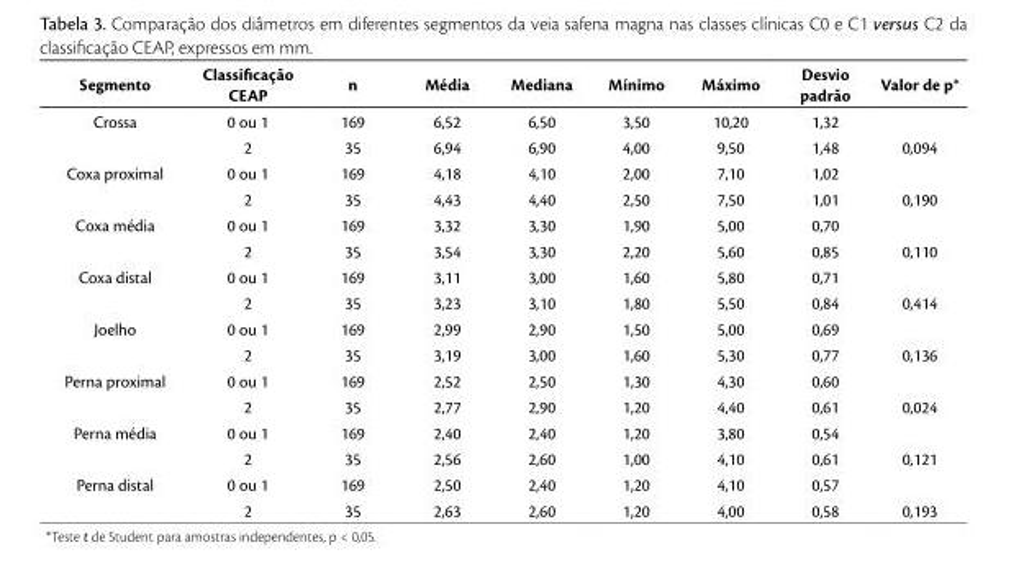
<table><thead><tr><td>Segmento</td><td>Classificação CEAP</td><td>n</td><td>Média</td><td>Mediana</td><td>Mínimo</td><td>Máximo</td><td>Desvio padrão</td><td>Valor de p*</td></tr></thead><tbody><tr><td rowspan="2">Crossa</td><td>0 ou 1</td><td>169</td><td>6,52</td><td>6,50</td><td>3,50</td><td>10,20</td><td>1,32</td><td></td></tr><tr><td>2</td><td>35</td><td>6,94</td><td>6,90</td><td>4,00</td><td>9,50</td><td>1,48</td><td>0,094</td></tr><tr><td rowspan="2">Coxa proximal</td><td>0 ou 1</td><td>169</td><td>4,18</td><td>4,10</td><td>2,00</td><td>7,10</td><td>1,02</td><td></td></tr><tr><td>2</td><td>35</td><td>4,43</td><td>4,40</td><td>2,50</td><td>7,50</td><td>1,01</td><td>0,190</td></tr><tr><td rowspan="2">Coxa média</td><td>0 ou 1</td><td>169</td><td>3,32</td><td>3,30</td><td>1,90</td><td>5,00</td><td>0,70</td><td></td></tr><tr><td>2</td><td>35</td><td>3,54</td><td>3,30</td><td>2,20</td><td>5,60</td><td>0,85</td><td>0,110</td></tr><tr><td rowspan="2">Coxa distal</td><td>0 ou 1</td><td>169</td><td>3,11</td><td>3,00</td><td>1,60</td><td>5,80</td><td>0,71</td><td></td></tr><tr><td>2</td><td>35</td><td>3,23</td><td>3,10</td><td>1,80</td><td>5,50</td><td>0,84</td><td>0,414</td></tr><tr><td rowspan="2">Joelho</td><td>0 ou 1</td><td>169</td><td>2,99</td><td>2,90</td><td>1,50</td><td>5,00</td><td>0,69</td><td></td></tr><tr><td>2</td><td>35</td><td>3,19</td><td>3,00</td><td>1,60</td><td>5,30</td><td>0,77</td><td>0,136</td></tr><tr><td rowspan="2">Perna proximal</td><td>0 ou 1</td><td>169</td><td>2,52</td><td>2,50</td><td>1,30</td><td>4,30</td><td>0,60</td><td></td></tr><tr><td>2</td><td>35</td><td>2,77</td><td>2,90</td><td>1,20</td><td>4,40</td><td>0,61</td><td>0,024</td></tr><tr><td rowspan="2">Perna média</td><td>0 ou 1</td><td>169</td><td>2,40</td><td>2,40</td><td>1,20</td><td>3,80</td><td>0,54</td><td></td></tr><tr><td>2</td><td>35</td><td>2,56</td><td>2,60</td><td>1,00</td><td>4,10</td><td>0,61</td><td>0,121</td></tr><tr><td rowspan="2">Perna distal</td><td>0 ou 1</td><td>169</td><td>2,50</td><td>2,40</td><td>1,20</td><td>4,10</td><td>0,57</td><td></td></tr><tr><td>2</td><td>35</td><td>2,63</td><td>2,60</td><td>1,20</td><td>4,00</td><td>0,58</td><td>0,193</td></tr></tbody></table>